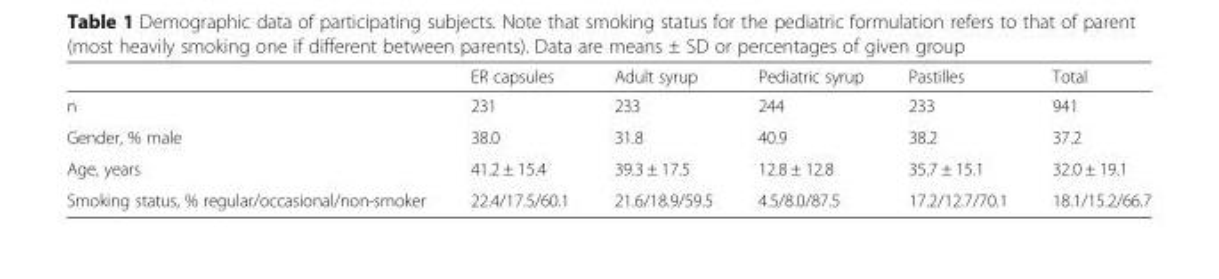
<table><thead><tr><td></td><td>ER capsules</td><td>Adult syrup</td><td>Pediatric syrup</td><td>Pastilles</td><td>Total</td></tr></thead><tbody><tr><td>n</td><td>231</td><td>233</td><td>244</td><td>233</td><td>941</td></tr><tr><td>Gender, % male</td><td>38.0</td><td>31.8</td><td>40.9</td><td>38.2</td><td>37.2</td></tr><tr><td>Age, years</td><td>41.2 ± 15.4</td><td>39.3 ± 17.5</td><td>12.8 ± 12.8</td><td>35.7 ± 15.1</td><td>32.0 ± 19.1</td></tr><tr><td>Smoking status, % regular/occasional/non-smoker</td><td>22.4/17.5/60.1</td><td>21.6/18.9/59.5</td><td>4.5/8.0/87.5</td><td>17.2/12.7/70.1</td><td>18.1/15.2/66.7</td></tr></tbody></table>